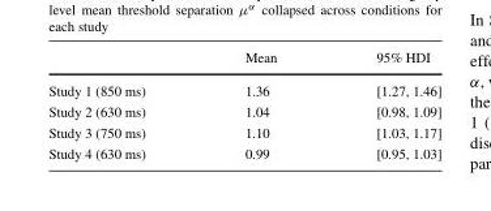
<table><thead><tr><td></td><td>Mean</td><td>95% HDI</td></tr></thead><tbody><tr><td>Study 1 (850 ms)</td><td>1.36</td><td>[1.27, 1.46]</td></tr><tr><td>Study 2 (630 ms)</td><td>1.04</td><td>[0.98, 1.09]</td></tr><tr><td>Study 3 (750 ms)</td><td>1.10</td><td>[1.03, 1.17]</td></tr><tr><td>Study 4 (630 ms)</td><td>0.99</td><td>[0.95, 1.03]</td></tr></tbody></table>